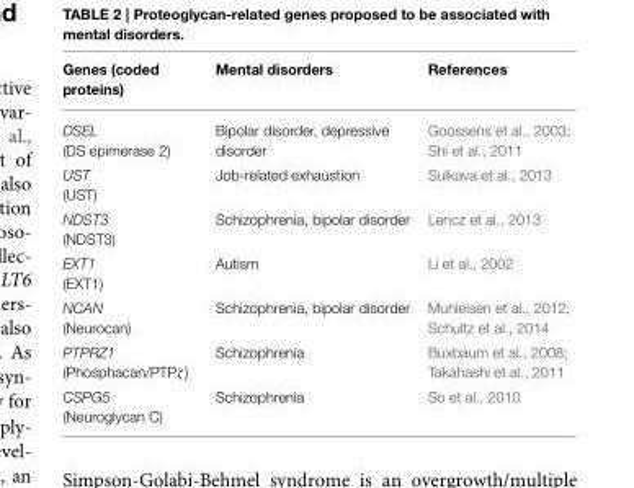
<table><thead><tr><td>Genes (coded proteins)</td><td>Mental disorders</td><td>References</td></tr></thead><tbody><tr><td>DSEL (DS epimerase 2)</td><td>Bipolar disorder, depressive disorder</td><td>Goossens et al., 2003; Shi et al., 2011</td></tr><tr><td>UST (UST)</td><td>Job-related exhaustion</td><td>Sulkava et al., 2013</td></tr><tr><td>NDST3 (NDST3)</td><td>Schizophrenia, bipolar disorder</td><td>Lencz et al., 2013</td></tr><tr><td>EXT1 (EXT1)</td><td>Autism</td><td>Li et al., 2002</td></tr><tr><td>NCAN (Neurocan)</td><td>Schizophrenia, bipolar disorder</td><td>Muhleisen et al., 2012; Schultz et al., 2014</td></tr><tr><td>PTPRZ1 (Phosphacan/PTPζ)</td><td>Schizophrenia</td><td>Buxbaum et al., 2008; Takahashi et al., 2011</td></tr><tr><td>CSPG5 (Neuroglycan C)</td><td>Schizophrenia</td><td>So et al., 2010</td></tr></tbody></table>